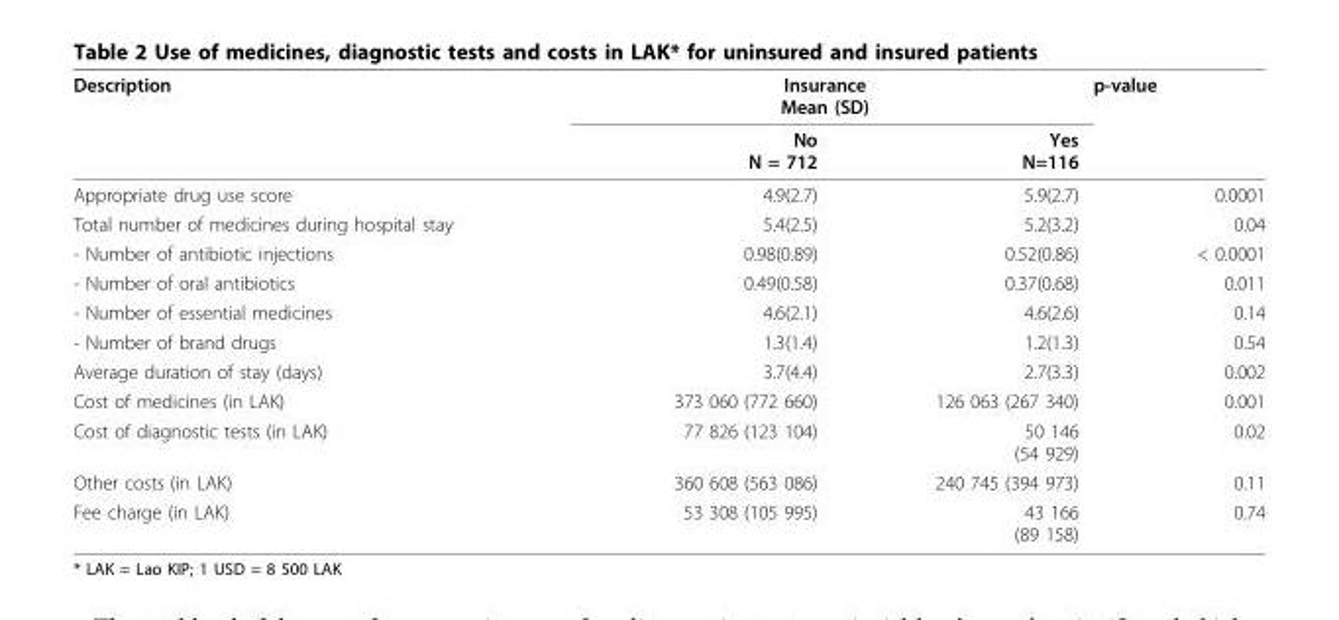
<table><thead><tr><td rowspan="2">Description</td><td colspan="2">Insurance Mean (SD)</td><td rowspan="2">p-value</td></tr><tr><td>No N = 712</td><td>Yes N=116</td></tr></thead><tbody><tr><td>Appropriate drug use score</td><td>4.9(2.7)</td><td>5.9(2.7)</td><td>0.0001</td></tr><tr><td>Total number of medicines during hospital stay</td><td>5.4(2.5)</td><td>5.2(3.2)</td><td>0.04</td></tr><tr><td>- Number of antibiotic injections</td><td>0.98(0.89)</td><td>0.52(0.86)</td><td>&lt; 0.0001</td></tr><tr><td>- Number of oral antibiotics</td><td>0.49(0.58)</td><td>0.37(0.68)</td><td>0.011</td></tr><tr><td>- Number of essential medicines</td><td>4.6(2.1)</td><td>4.6(2.6)</td><td>0.14</td></tr><tr><td>- Number of brand drugs</td><td>1.3(1.4)</td><td>1.2(1.3)</td><td>0.54</td></tr><tr><td>Average duration of stay (days)</td><td>3.7(4.4)</td><td>2.7(3.3)</td><td>0.002</td></tr><tr><td>Cost of medicines (in LAK)</td><td>373 060 (772 660)</td><td>126 063 (267 340)</td><td>0.001</td></tr><tr><td>Cost of diagnostic tests (in LAK)</td><td>77 826 (123 104)</td><td>50 146 (54 929)</td><td>0.02</td></tr><tr><td>Other costs (in LAK)</td><td>360 608 (563 086)</td><td>240 745 (394 973)</td><td>0.11</td></tr><tr><td>Fee charge (in LAK)</td><td>53 308 (105 995)</td><td>43 166 (89 158)</td><td>0.74</td></tr></tbody></table>